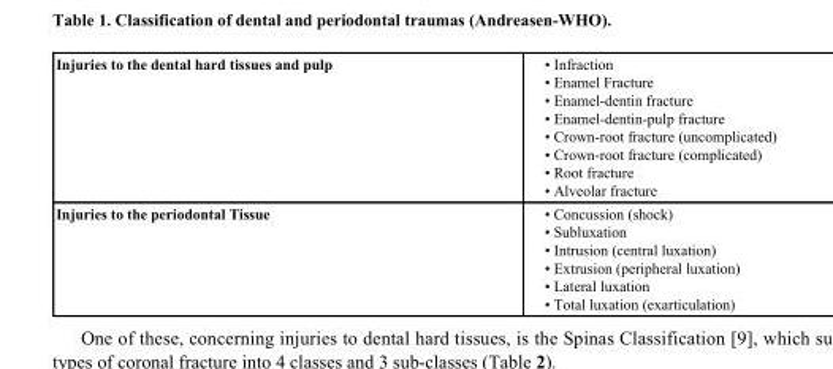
<table><tbody><tr><td>Injuries to the dental hard tissues and pulp</td><td>• Infraction • Enamel Fracture • Enamel-dentin fracture • Enamel-dentin-pulp fracture • Crown-root fracture (uncomplicated) • Crown-root fracture (complicated) • Root fracture • Alveolar fracture</td></tr><tr><td>Injuries to the periodontal Tissue</td><td>• Concussion (shock) • Subluxation • Intrusion (central luxation) • Extrusion (peripheral luxation) • Lateral luxation • Total luxation (exarticulation)</td></tr></tbody></table>